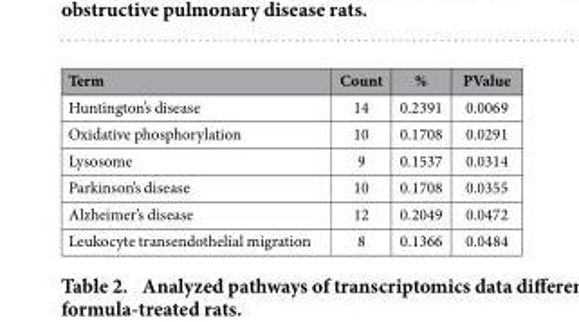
<table><thead><tr><td>Term</td><td>Count</td><td>%</td><td>PValue</td></tr></thead><tbody><tr><td>Huntington’s disease</td><td>14</td><td>0.2391</td><td>0.0069</td></tr><tr><td>Oxidative phosphorylation</td><td>10</td><td>0.1708</td><td>0.0291</td></tr><tr><td>Lysosome</td><td>9</td><td>0.1537</td><td>0.0314</td></tr><tr><td>Parkinson’s disease</td><td>10</td><td>0.1708</td><td>0.0355</td></tr><tr><td>Alzheimer’s disease</td><td>12</td><td>0.2049</td><td>0.0472</td></tr><tr><td>Leukocyte transendothelial migration</td><td>8</td><td>0.1366</td><td>0.0484</td></tr></tbody></table>